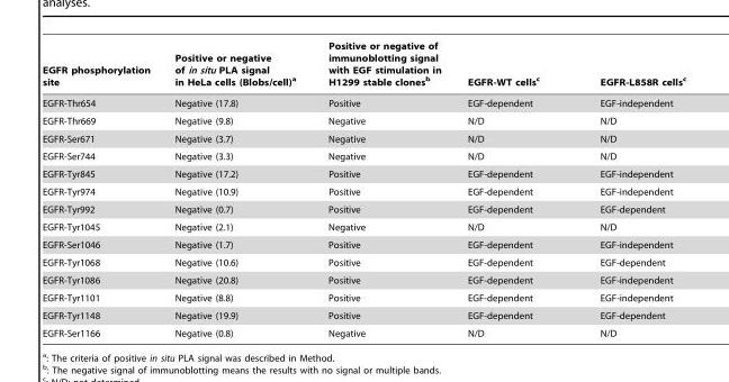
<table><thead><tr><td>EGFR phosphorylation site</td><td>Positive or negative of in situ PLA signal in HeLa cells (Blobs/cell)<sup>a</sup></td><td>Positive or negative of immunoblotting signal with EGF stimulation in H1299 stable clones<sup>b</sup></td><td>EGFR-WT cells<sup>c</sup></td><td>EGFR-L858R cells<sup>c</sup></td></tr></thead><tbody><tr><td>EGFR-Thr654</td><td>Negative (17.8)</td><td>Positive</td><td>EGF-dependent</td><td>EGF-independent</td></tr><tr><td>EGFR-Thr669</td><td>Negative (9.8)</td><td>Negative</td><td>N/D</td><td>N/D</td></tr><tr><td>EGFR-Ser671</td><td>Negative (3.7)</td><td>Negative</td><td>N/D</td><td>N/D</td></tr><tr><td>EGFR-Ser744</td><td>Negative (3.3)</td><td>Negative</td><td>N/D</td><td>N/D</td></tr><tr><td>EGFR-Tyr845</td><td>Negative (17.2)</td><td>Positive</td><td>EGF-dependent</td><td>EGF-independent</td></tr><tr><td>EGFR-Tyr974</td><td>Negative (10.9)</td><td>Positive</td><td>EGF-dependent</td><td>EGF-independent</td></tr><tr><td>EGFR-Tyr992</td><td>Negative (0.7)</td><td>Positive</td><td>EGF-dependent</td><td>EGF-dependent</td></tr><tr><td>EGFR-Tyr1045</td><td>Negative (2.1)</td><td>Negative</td><td>N/D</td><td>N/D</td></tr><tr><td>EGFR-Ser1046</td><td>Negative (1.7)</td><td>Positive</td><td>EGF-dependent</td><td>EGF-independent</td></tr><tr><td>EGFR-Tyr1068</td><td>Negative (10.6)</td><td>Positive</td><td>EGF-dependent</td><td>EGF-dependent</td></tr><tr><td>EGFR-Tyr1086</td><td>Negative (20.8)</td><td>Positive</td><td>EGF-dependent</td><td>EGF-independent</td></tr><tr><td>EGFR-Tyr1101</td><td>Negative (8.8)</td><td>Positive</td><td>EGF-dependent</td><td>EGF-independent</td></tr><tr><td>EGFR-Tyr1148</td><td>Negative (19.9)</td><td>Positive</td><td>EGF-dependent</td><td>EGF-dependent</td></tr><tr><td>EGFR-Ser1166</td><td>Negative (0.8)</td><td>Negative</td><td>N/D</td><td>N/D</td></tr></tbody></table>